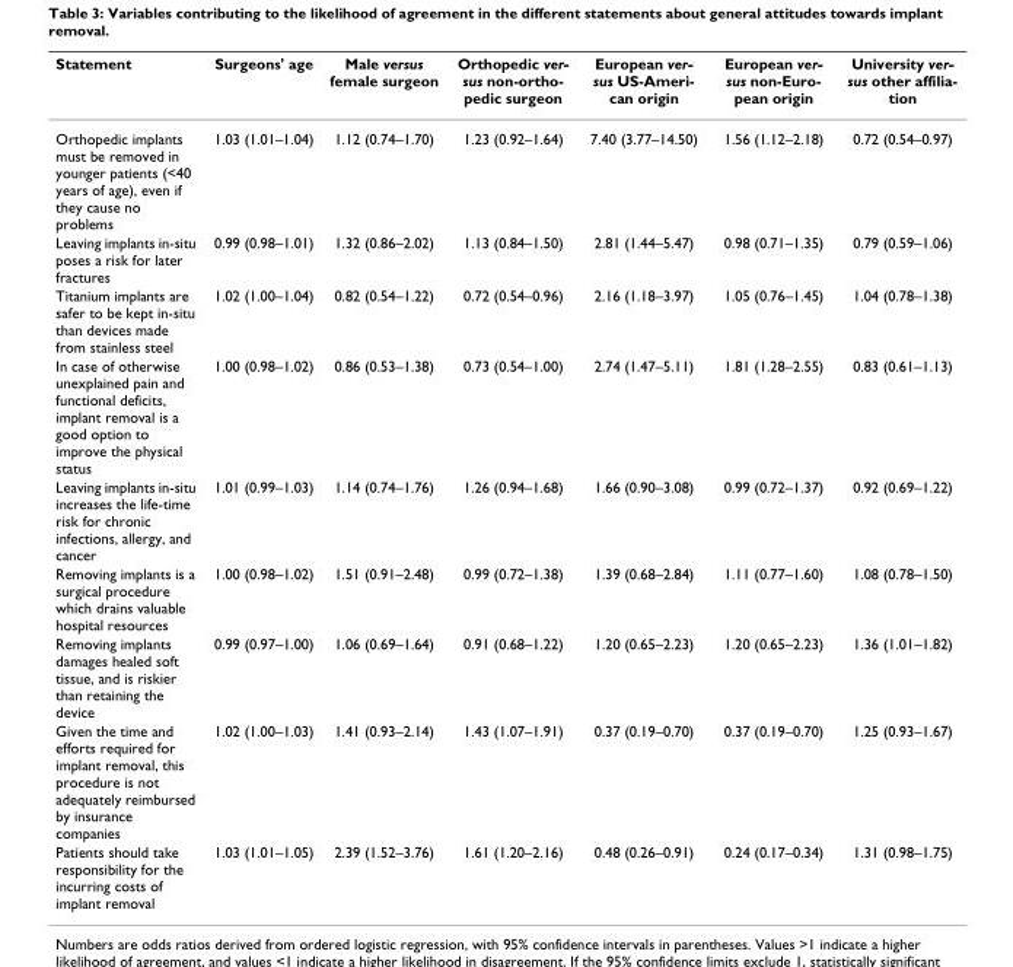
<table><thead><tr><td>Statement</td><td>Surgeons&#x27; age</td><td>Male versus female surgeon</td><td>Orthopedic ver- sus non-ortho- pedic surgeon</td><td>European ver- sus US-Ameri- can origin</td><td>European ver- sus non-Euro- pean origin</td><td>University ver- sus other affilia- tion</td></tr></thead><tbody><tr><td>Orthopedic implants must be removed in younger patients (&lt;40 years of age), even if they cause no problems</td><td>1.03 (1.01–1.04)</td><td>1.12 (0.74–1.70)</td><td>1.23 (0.92–1.64)</td><td>7.40 (3.77–14.50)</td><td>1.56 (1.12–2.18)</td><td>0.72 (0.54–0.97)</td></tr><tr><td>Leaving implants in-situ poses a risk for later fractures</td><td>0.99 (0.98–1.01)</td><td>1.32 (0.86–2.02)</td><td>1.13 (0.84–1.50)</td><td>2.81 (1.44–5.47)</td><td>0.98 (0.71–1.35)</td><td>0.79 (0.59–1.06)</td></tr><tr><td>Titanium implants are safer to be kept in-situ than devices made from stainless steel</td><td>1.02 (1.00–1.04)</td><td>0.82 (0.54–1.22)</td><td>0.72 (0.54–0.96)</td><td>2.16 (1.18–3.97)</td><td>1.05 (0.76–1.45)</td><td>1.04 (0.78–1.38)</td></tr><tr><td>In case of otherwise unexplained pain and functional deficits, implant removal is a good option to improve the physical status</td><td>1.00 (0.98–1.02)</td><td>0.86 (0.53–1.38)</td><td>0.73 (0.54–1.00)</td><td>2.74 (1.47–5.11)</td><td>1.81 (1.28–2.55)</td><td>0.83 (0.61–1.13)</td></tr><tr><td>Leaving implants in-situ increases the life-time risk for chronic infections, allergy, and cancer</td><td>1.01 (0.99–1.03)</td><td>1.14 (0.74–1.76)</td><td>1.26 (0.94–1.68)</td><td>1.66 (0.90–3.08)</td><td>0.99 (0.72–1.37)</td><td>0.92 (0.69–1.22)</td></tr><tr><td>Removing implants is a surgical procedure which drains valuable hospital resources</td><td>1.00 (0.98–1.02)</td><td>1.51 (0.91–2.48)</td><td>0.99 (0.72–1.38)</td><td>1.39 (0.68–2.84)</td><td>1.11 (0.77–1.60)</td><td>1.08 (0.78–1.50)</td></tr><tr><td>Removing implants damages healed soft tissue, and is riskier than retaining the device</td><td>0.99 (0.97–1.00)</td><td>1.06 (0.69–1.64)</td><td>0.91 (0.68–1.22)</td><td>1.20 (0.65–2.23)</td><td>1.20 (0.65–2.23)</td><td>1.36 (1.01–1.82)</td></tr><tr><td>Given the time and efforts required for implant removal, this procedure is not adequately reimbursed by insurance companies</td><td>1.02 (1.00–1.03)</td><td>1.41 (0.93–2.14)</td><td>1.43 (1.07–1.91)</td><td>0.37 (0.19–0.70)</td><td>0.37 (0.19–0.70)</td><td>1.25 (0.93–1.67)</td></tr><tr><td>Patients should take responsibility for the incurring costs of implant removal</td><td>1.03 (1.01–1.05)</td><td>2.39 (1.52–3.76)</td><td>1.61 (1.20–2.16)</td><td>0.48 (0.26–0.91)</td><td>0.24 (0.17–0.34)</td><td>1.31 (0.98–1.75)</td></tr></tbody></table>